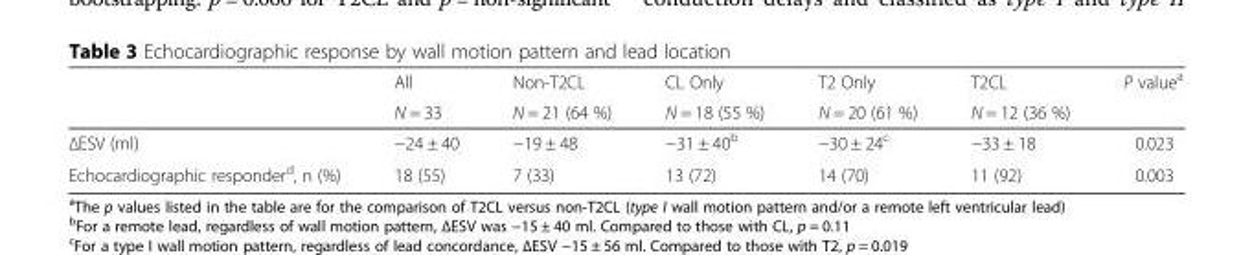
<table><thead><tr><td rowspan="2"></td><td rowspan="2">All N = 33</td><td rowspan="2">Non-T2CL N = 21 (64 %)</td><td rowspan="2">CL Only N = 18 (55 %)</td><td rowspan="2">T2 Only N = 20 (61 %)</td><td rowspan="2">T2CL N = 12 (36 %)</td><td rowspan="2">P value<sup>a</sup></td></tr><tr></tr></thead><tbody><tr><td>ΔESV (ml)</td><td>−24 ± 40</td><td>−19 ± 48</td><td>−31 ± 40<sup>b</sup></td><td>−30 ± 24<sup>c</sup></td><td>−33 ± 18</td><td>0.023</td></tr><tr><td>Echocardiographic responder<sup>d</sup>, n (%)</td><td>18 (55)</td><td>7 (33)</td><td>13 (72)</td><td>14 (70)</td><td>11 (92)</td><td>0.003</td></tr></tbody></table>